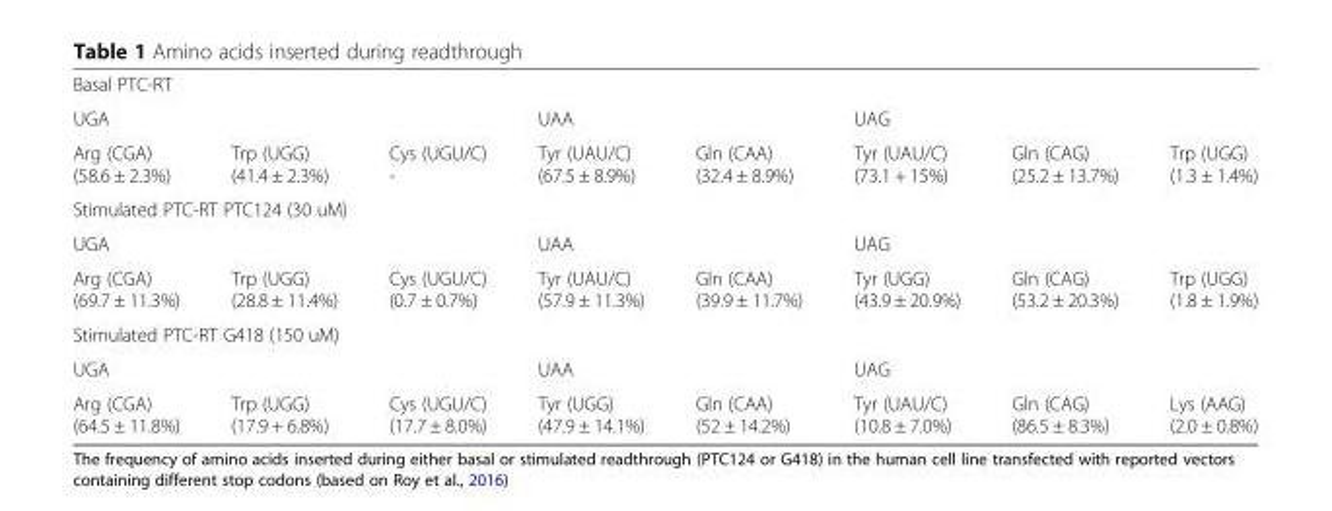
<table><tbody><tr><td colspan="8">Basal PTC-RT</td></tr><tr><td colspan="3">UGA</td><td colspan="2">UAA</td><td colspan="3">UAG</td></tr><tr><td>Arg (CGA) (58.6 ± 2.3%)</td><td>Trp (UGG) (41.4 ± 2.3%)</td><td>Cys (UGU/C) -</td><td>Tyr (UAU/C) (67.5 ± 8.9%)</td><td>Gln (CAA) (32.4 ± 8.9%)</td><td>Tyr (UAU/C) (73.1 + 15%)</td><td>Gln (CAG) (25.2 ± 13.7%)</td><td>Trp (UGG) (1.3 ± 1.4%)</td></tr><tr><td colspan="8">Stimulated PTC-RT PTC124 (30 uM)</td></tr><tr><td colspan="3">UGA</td><td colspan="2">UAA</td><td colspan="3">UAG</td></tr><tr><td>Arg (CGA) (69.7 ± 11.3%)</td><td>Trp (UGG) (28.8 ± 11.4%)</td><td>Cys (UGU/C) (0.7 ± 0.7%)</td><td>Tyr (UAU/C) (57.9 ± 11.3%)</td><td>Gln (CAA) (39.9 ± 11.7%)</td><td>Tyr (UGG) (43.9 ± 20.9%)</td><td>Gln (CAG) (53.2 ± 20.3%)</td><td>Trp (UGG) (1.8 ± 1.9%)</td></tr><tr><td colspan="8">Stimulated PTC-RT G418 (150 uM)</td></tr><tr><td colspan="3">UGA</td><td colspan="2">UAA</td><td colspan="3">UAG</td></tr><tr><td>Arg (CGA) (64.5 ± 11.8%)</td><td>Trp (UGG) (17.9 + 6.8%)</td><td>Cys (UGU/C) (17.7 ± 8.0%)</td><td>Tyr (UGG) (47.9 ± 14.1%)</td><td>Gln (CAA) (52 ± 14.2%)</td><td>Tyr (UAU/C) (10.8 ± 7.0%)</td><td>Gln (CAG) (86.5 ± 8.3%)</td><td>Lys (AAG) (2.0 ± 0.8%)</td></tr></tbody></table>